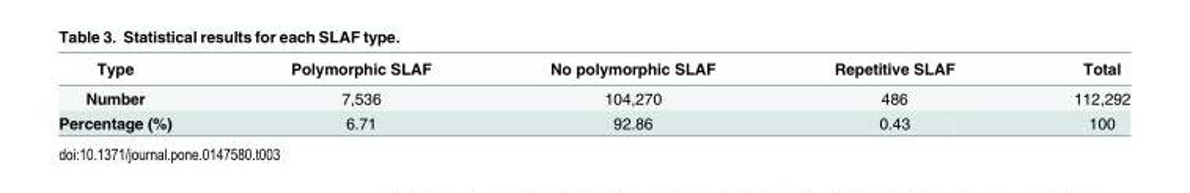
<table><thead><tr><td>Type</td><td>Polymorphic SLAF</td><td>No polymorphic SLAF</td><td>Repetitive SLAF</td><td>Total</td></tr></thead><tbody><tr><td>Number</td><td>7,536</td><td>104,270</td><td>486</td><td>112,292</td></tr><tr><td>Percentage (%)</td><td>6.71</td><td>92.86</td><td>0.43</td><td>100</td></tr></tbody></table>